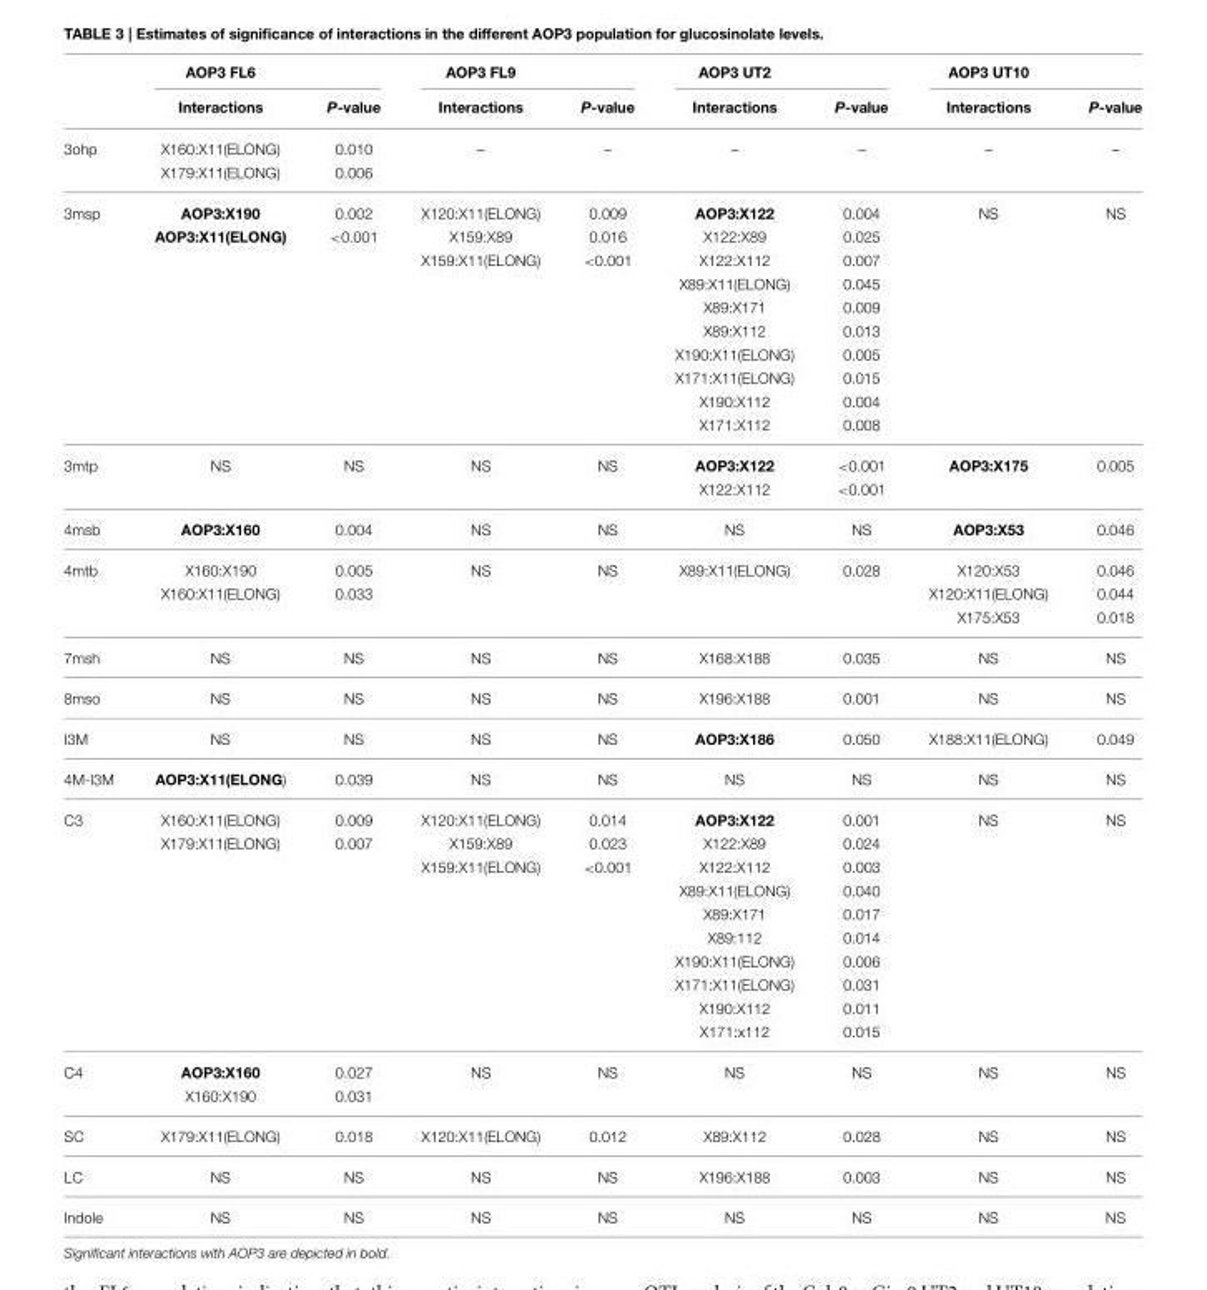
<table><thead><tr><td rowspan="2"></td><td rowspan="2">AOP3 FL6 Interactions</td><td rowspan="2">P-value</td><td rowspan="2">AOP3 FL9 Interactions</td><td rowspan="2">P-value</td><td rowspan="2">AOP3 UT2 Interactions</td><td rowspan="2">P-value</td><td rowspan="2">AOP3 UT10 Interactions</td><td rowspan="2">P-value</td></tr><tr></tr></thead><tbody><tr><td rowspan="2">3ohp</td><td>X160:X11(ELONG)</td><td>0.010</td><td>–</td><td>–</td><td>–</td><td>–</td><td>–</td><td>–</td></tr><tr><td>X179:X11(ELONG)</td><td>0.006</td><td></td><td></td><td></td><td></td><td></td><td></td></tr><tr><td rowspan="10">3msp</td><td>AOP3:X190</td><td>0.002</td><td>X120:X11(ELONG)</td><td>0.009</td><td>AOP3:X122</td><td>0.004</td><td>NS</td><td>NS</td></tr><tr><td>AOP3:X11(ELONG)</td><td>&lt;0.001</td><td>X159:X89</td><td>0.016</td><td>X122:X89</td><td>0.025</td><td></td><td></td></tr><tr><td></td><td></td><td>X159:X11(ELONG)</td><td>&lt;0.001</td><td>X122:X112</td><td>0.007</td><td></td><td></td></tr><tr><td></td><td></td><td></td><td></td><td>X89:X11(ELONG)</td><td>0.045</td><td></td><td></td></tr><tr><td></td><td></td><td></td><td></td><td>X89:X171</td><td>0.009</td><td></td><td></td></tr><tr><td></td><td></td><td></td><td></td><td>X89:X112</td><td>0.013</td><td></td><td></td></tr><tr><td></td><td></td><td></td><td></td><td>X190:X11(ELONG)</td><td>0.005</td><td></td><td></td></tr><tr><td></td><td></td><td></td><td></td><td>X171:X11(ELONG)</td><td>0.015</td><td></td><td></td></tr><tr><td></td><td></td><td></td><td></td><td>X190:X112</td><td>0.004</td><td></td><td></td></tr><tr><td></td><td></td><td></td><td></td><td>X171:X112</td><td>0.008</td><td></td><td></td></tr><tr><td rowspan="2">3mtp</td><td>NS</td><td>NS</td><td>NS</td><td>NS</td><td>AOP3:X122</td><td>&lt;0.001</td><td>AOP3:X175</td><td>0.005</td></tr><tr><td></td><td></td><td></td><td></td><td>X122:X112</td><td>&lt;0.001</td><td></td><td></td></tr><tr><td>4msb</td><td>AOP3:X160</td><td>0.004</td><td>NS</td><td>NS</td><td>NS</td><td>NS</td><td>AOP3:X53</td><td>0.046</td></tr><tr><td rowspan="3">4mtb</td><td>X160:X190</td><td>0.005</td><td>NS</td><td>NS</td><td>X89:X11(ELONG)</td><td>0.028</td><td>X120:X53</td><td>0.046</td></tr><tr><td>X160:X11(ELONG)</td><td>0.033</td><td></td><td></td><td></td><td></td><td>X120:X11(ELONG)</td><td>0.044</td></tr><tr><td></td><td></td><td></td><td></td><td></td><td></td><td>X175:X53</td><td>0.018</td></tr><tr><td>7msh</td><td>NS</td><td>NS</td><td>NS</td><td>NS</td><td>X168:X188</td><td>0.035</td><td>NS</td><td>NS</td></tr><tr><td>8mso</td><td>NS</td><td>NS</td><td>NS</td><td>NS</td><td>X196:X188</td><td>0.001</td><td>NS</td><td>NS</td></tr><tr><td>I3M</td><td>NS</td><td>NS</td><td>NS</td><td>NS</td><td>AOP3:X186</td><td>0.050</td><td>X188:X11(ELONG)</td><td>0.049</td></tr><tr><td>4M-I3M</td><td>AOP3:X11(ELONG)</td><td>0.039</td><td>NS</td><td>NS</td><td>NS</td><td>NS</td><td>NS</td><td>NS</td></tr><tr><td rowspan="10">C3</td><td>X160:X11(ELONG)</td><td>0.009</td><td>X120:X11(ELONG)</td><td>0.014</td><td>AOP3:X122</td><td>0.001</td><td>NS</td><td>NS</td></tr><tr><td>X179:X11(ELONG)</td><td>0.007</td><td>X159:X89</td><td>0.023</td><td>X122:X89</td><td>0.024</td><td></td><td></td></tr><tr><td></td><td></td><td>X159:X11(ELONG)</td><td>&lt;0.001</td><td>X122:X112</td><td>0.003</td><td></td><td></td></tr><tr><td></td><td></td><td></td><td></td><td>X89:X11(ELONG)</td><td>0.040</td><td></td><td></td></tr><tr><td></td><td></td><td></td><td></td><td>X89:X171</td><td>0.017</td><td></td><td></td></tr><tr><td></td><td></td><td></td><td></td><td>X89:112</td><td>0.014</td><td></td><td></td></tr><tr><td></td><td></td><td></td><td></td><td>X190:X11(ELONG)</td><td>0.006</td><td></td><td></td></tr><tr><td></td><td></td><td></td><td></td><td>X171:X11(ELONG)</td><td>0.031</td><td></td><td></td></tr><tr><td></td><td></td><td></td><td></td><td>X190:X112</td><td>0.011</td><td></td><td></td></tr><tr><td></td><td></td><td></td><td></td><td>X171:x112</td><td>0.015</td><td></td><td></td></tr><tr><td rowspan="2">C4</td><td>AOP3:X160</td><td>0.027</td><td>NS</td><td>NS</td><td>NS</td><td>NS</td><td>NS</td><td>NS</td></tr><tr><td>X160:X190</td><td>0.031</td><td></td><td></td><td></td><td></td><td></td><td></td></tr><tr><td>SC</td><td>X179:X11(ELONG)</td><td>0.018</td><td>X120:X11(ELONG)</td><td>0.012</td><td>X89:X112</td><td>0.028</td><td>NS</td><td>NS</td></tr><tr><td>LC</td><td>NS</td><td>NS</td><td>NS</td><td>NS</td><td>X196:X188</td><td>0.003</td><td>NS</td><td>NS</td></tr><tr><td>Indole</td><td>NS</td><td>NS</td><td>NS</td><td>NS</td><td>NS</td><td>NS</td><td>NS</td><td>NS</td></tr></tbody></table>